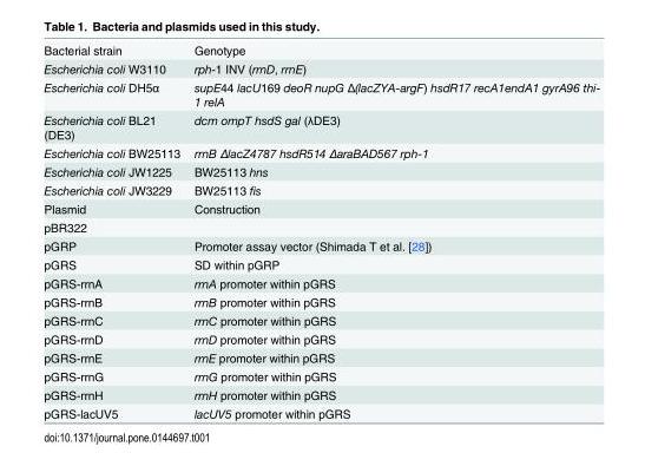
<table><tbody><tr><td>Bacterial strain</td><td>Genotype</td></tr><tr><td>Escherichia coli W3110</td><td>rph-1 INV (rrnD, rrnE)</td></tr><tr><td>Escherichia coli DH5α</td><td>supE44 lacU169 deoR nupG Δ(lacZYA-argF) hsdR17 recA1endA1 gyrA96 thi- 1 relA</td></tr><tr><td>Escherichia coli BL21 (DE3)</td><td>dcm ompT hsdS gal (λDE3)</td></tr><tr><td>Escherichia coli BW25113</td><td>rrnB ΔlacZ4787 hsdR514 ΔaraBAD567 rph-1</td></tr><tr><td>Escherichia coli JW1225</td><td>BW25113 hns</td></tr><tr><td>Escherichia coli JW3229</td><td>BW25113 fis</td></tr><tr><td>Plasmid</td><td>Construction</td></tr><tr><td colspan="2">pBR322</td></tr><tr><td>pGRP</td><td>Promoter assay vector (Shimada T et al. [28])</td></tr><tr><td>pGRS</td><td>SD within pGRP</td></tr><tr><td>pGRS-rrnA</td><td>rrnA promoter within pGRS</td></tr><tr><td>pGRS-rrnB</td><td>rrnB promoter within pGRS</td></tr><tr><td>pGRS-rrnC</td><td>rrnC promoter within pGRS</td></tr><tr><td>pGRS-rrnD</td><td>rrnD promoter within pGRS</td></tr><tr><td>pGRS-rrnE</td><td>rrnE promoter within pGRS</td></tr><tr><td>pGRS-rrnG</td><td>rrnG promoter within pGRS</td></tr><tr><td>pGRS-rrnH</td><td>rrnH promoter within pGRS</td></tr><tr><td>pGRS-lacUV5</td><td>lacUV5 promoter within pGRS</td></tr></tbody></table>